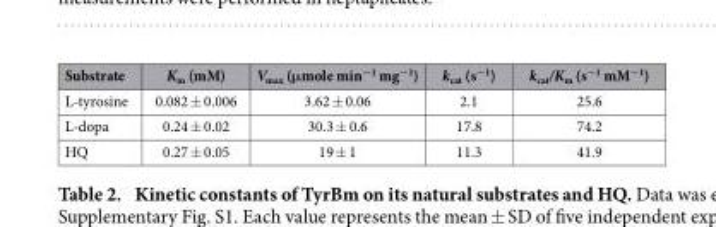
<table><thead><tr><td>Substrate</td><td>K<sub>m</sub> (mM)</td><td>V<sub>max</sub> (μmole min<sup>−1</sup> mg<sup>−1</sup>)</td><td>k<sub>cat</sub> (s<sup>−1</sup>)</td><td>k<sub>cat</sub>/K<sub>m</sub> (s<sup>−1</sup> mM<sup>−1</sup>)</td></tr></thead><tbody><tr><td>L-tyrosine</td><td>0.082 ± 0.006</td><td>3.62 ± 0.06</td><td>2.1</td><td>25.6</td></tr><tr><td>L-dopa</td><td>0.24 ± 0.02</td><td>30.3 ± 0.6</td><td>17.8</td><td>74.2</td></tr><tr><td>HQ</td><td>0.27 ± 0.05</td><td>19 ± 1</td><td>11.3</td><td>41.9</td></tr></tbody></table>